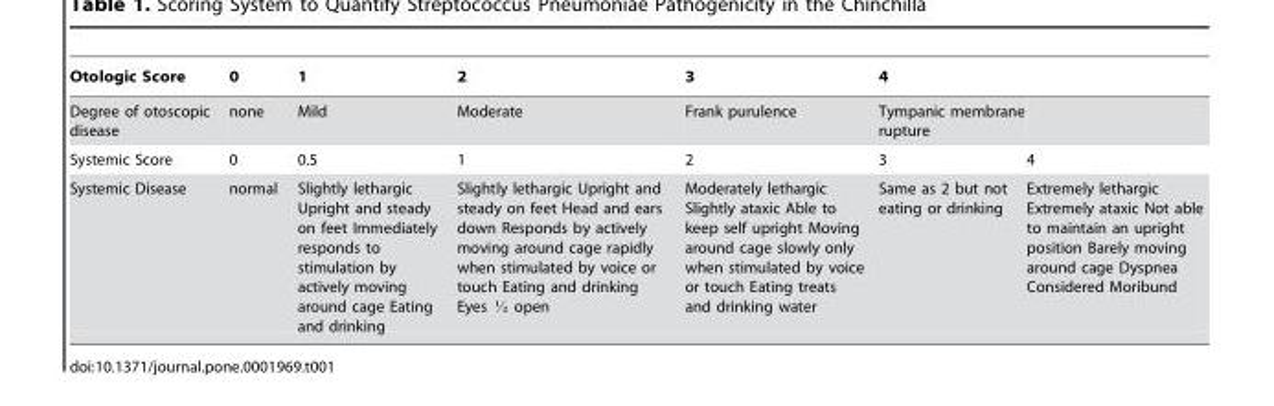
<table><thead><tr><td>Otologic Score</td><td>0</td><td>1</td><td>2</td><td>3</td><td>4</td><td></td></tr></thead><tbody><tr><td>Degree of otoscopic disease</td><td>none</td><td>Mild</td><td>Moderate</td><td>Frank purulence</td><td>Tympanic membrane rupture</td><td></td></tr><tr><td>Systemic Score</td><td>0</td><td>0.5</td><td>1</td><td>2</td><td>3</td><td>4</td></tr><tr><td>Systemic Disease</td><td>normal</td><td>Slightly lethargic Upright and steady on feet Immediately responds to stimulation by actively moving around cage Eating and drinking</td><td>Slightly lethargic Upright and steady on feet Head and ears down Responds by actively moving around cage rapidly when stimulated by voice or touch Eating and drinking Eyes K open</td><td>Moderately lethargic Slightly ataxic Able to keep self upright Moving around cage slowly only when stimulated by voice or touch Eating treats and drinking water</td><td>Same as 2 but not eating or drinking</td><td>Extremely lethargic Extremely ataxic Not able to maintain an upright position Barely moving around cage Dyspnea Considered Moribund</td></tr></tbody></table>